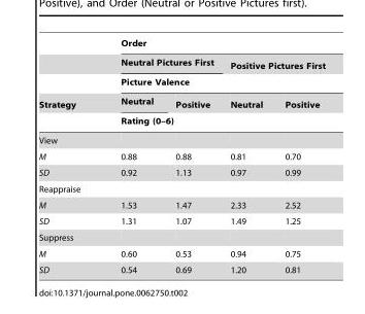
<table><thead><tr><td rowspan="5">Strategy</td><td colspan="4">Order</td></tr><tr><td colspan="2">Neutral Pictures First</td><td colspan="2">Positive Pictures First</td></tr><tr><td colspan="4">Picture Valence</td></tr><tr><td>Neutral</td><td>Positive</td><td>Neutral</td><td>Positive</td></tr><tr><td colspan="4">Rating (0–6)</td></tr></thead><tbody><tr><td colspan="5">View</td></tr><tr><td>M</td><td>0.88</td><td>0.88</td><td>0.81</td><td>0.70</td></tr><tr><td>SD</td><td>0.92</td><td>1.13</td><td>0.97</td><td>0.99</td></tr><tr><td colspan="5">Reappraise</td></tr><tr><td>M</td><td>1.53</td><td>1.47</td><td>2.33</td><td>2.52</td></tr><tr><td>SD</td><td>1.31</td><td>1.07</td><td>1.49</td><td>1.25</td></tr><tr><td colspan="5">Suppress</td></tr><tr><td>M</td><td>0.60</td><td>0.53</td><td>0.94</td><td>0.75</td></tr><tr><td>SD</td><td>0.54</td><td>0.69</td><td>1.20</td><td>0.81</td></tr></tbody></table>